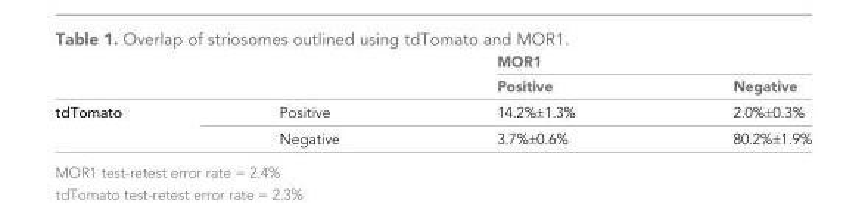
<table><thead><tr><td rowspan="2"></td><td rowspan="2"></td><td colspan="2">MOR1</td></tr><tr><td>Positive</td><td>Negative</td></tr></thead><tbody><tr><td rowspan="2">tdTomato</td><td>Positive</td><td>14.2%±1.3%</td><td>2.0%±0.3%</td></tr><tr><td>Negative</td><td>3.7%±0.6%</td><td>80.2%±1.9%</td></tr></tbody></table>